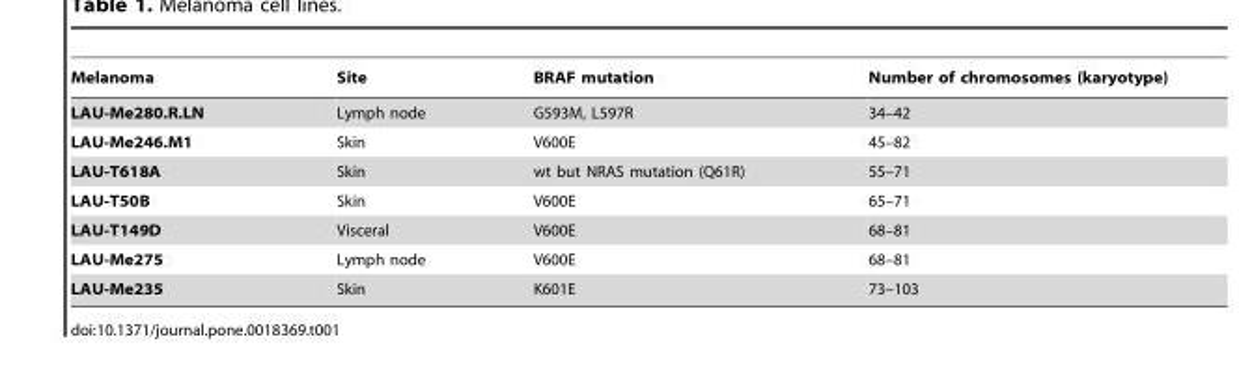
<table><thead><tr><td>Melanoma</td><td>Site</td><td>BRAF mutation</td><td>Number of chromosomes (karyotype)</td></tr></thead><tbody><tr><td>LAU-Me280.R.LN</td><td>Lymph node</td><td>G593M, L597R</td><td>34–42</td></tr><tr><td>LAU-Me246.M1</td><td>Skin</td><td>V600E</td><td>45–82</td></tr><tr><td>LAU-T618A</td><td>Skin</td><td>wt but NRAS mutation (Q61R)</td><td>55–71</td></tr><tr><td>LAU-T50B</td><td>Skin</td><td>V600E</td><td>65–71</td></tr><tr><td>LAU-T149D</td><td>Visceral</td><td>V600E</td><td>68–81</td></tr><tr><td>LAU-Me275</td><td>Lymph node</td><td>V600E</td><td>68–81</td></tr><tr><td>LAU-Me235</td><td>Skin</td><td>K601E</td><td>73–103</td></tr></tbody></table>